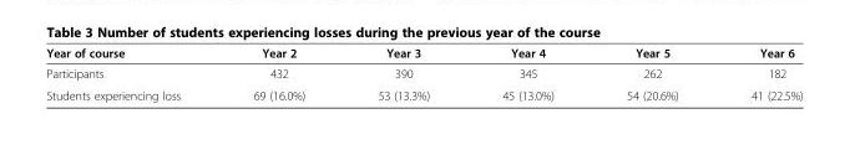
<table><thead><tr><td>Year of course</td><td>Year 2</td><td>Year 3</td><td>Year 4</td><td>Year 5</td><td>Year 6</td></tr></thead><tbody><tr><td>Participants</td><td>432</td><td>390</td><td>345</td><td>262</td><td>182</td></tr><tr><td>Students experiencing loss</td><td>69 (16.0%)</td><td>53 (13.3%)</td><td>45 (13.0%)</td><td>54 (20.6%)</td><td>41 (22.5%)</td></tr></tbody></table>